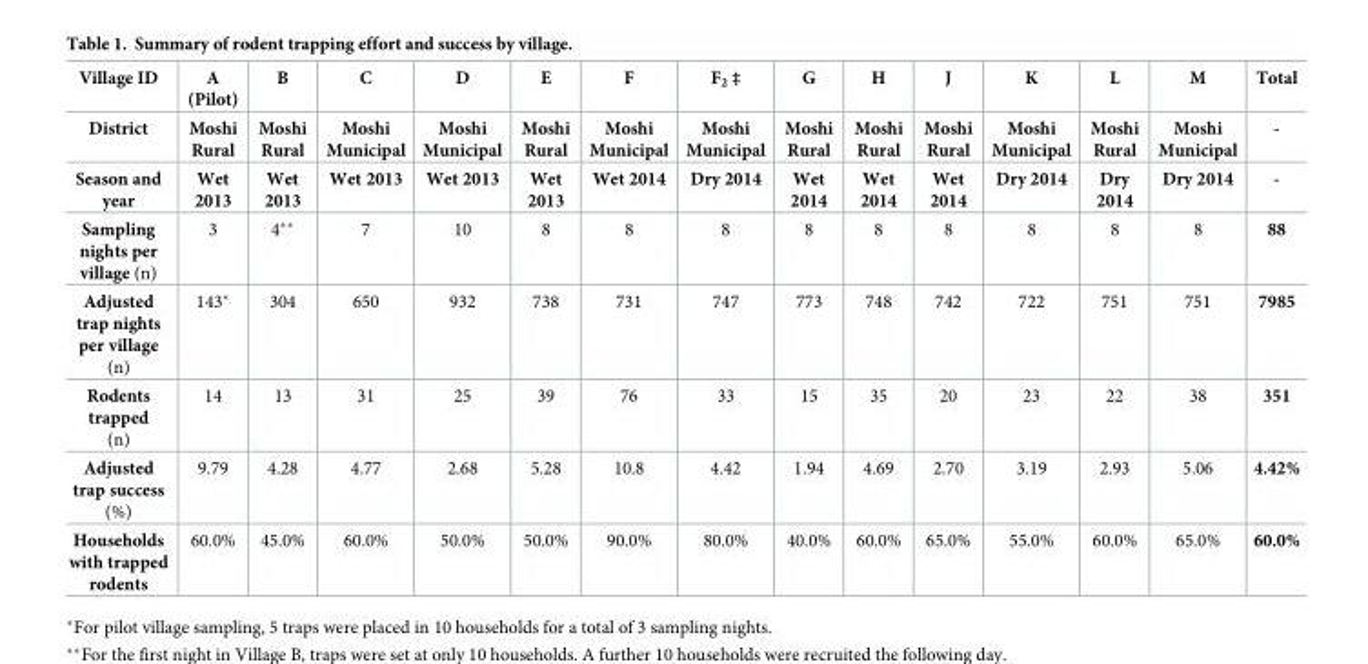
<table><thead><tr><td rowspan="3">Village ID District Season and year</td><td rowspan="3">A (Pilot) Moshi Rural Wet 2013</td><td rowspan="3">B Moshi Rural Wet 2013</td><td rowspan="3">C Moshi Municipal Wet 2013</td><td rowspan="3">D Moshi Municipal Wet 2013</td><td rowspan="3">E Moshi Rural Wet 2013</td><td rowspan="3">F Moshi Municipal Wet 2014</td><td rowspan="3">F<sub>2</sub> ‡ Moshi Municipal Dry 2014</td><td rowspan="3">G Moshi Rural Wet 2014</td><td rowspan="3">H Moshi Rural Wet 2014</td><td rowspan="3">J Moshi Rural Wet 2014</td><td rowspan="3">K Moshi Municipal Dry 2014</td><td rowspan="3">L Moshi Rural Dry 2014</td><td rowspan="3">M Moshi Municipal Dry 2014</td><td rowspan="3">Total - -</td></tr><tr></tr><tr></tr></thead><tbody><tr><td>Sampling nights per village (n)</td><td>3</td><td>4**</td><td>7</td><td>10</td><td>8</td><td>8</td><td>8</td><td>8</td><td>8</td><td>8</td><td>8</td><td>8</td><td>8</td><td>88</td></tr><tr><td>Adjusted trap nights per village (n)</td><td>143*</td><td>304</td><td>650</td><td>932</td><td>738</td><td>731</td><td>747</td><td>773</td><td>748</td><td>742</td><td>722</td><td>751</td><td>751</td><td>7985</td></tr><tr><td>Rodents trapped (n)</td><td>14</td><td>13</td><td>31</td><td>25</td><td>39</td><td>76</td><td>33</td><td>15</td><td>35</td><td>20</td><td>23</td><td>22</td><td>38</td><td>351</td></tr><tr><td>Adjusted trap success (%)</td><td>9.79</td><td>4.28</td><td>4.77</td><td>2.68</td><td>5.28</td><td>10.8</td><td>4.42</td><td>1.94</td><td>4.69</td><td>2.70</td><td>3.19</td><td>2.93</td><td>5.06</td><td>4.42%</td></tr><tr><td>Households with trapped rodents</td><td>60.0%</td><td>45.0%</td><td>60.0%</td><td>50.0%</td><td>50.0%</td><td>90.0%</td><td>80.0%</td><td>40.0%</td><td>60.0%</td><td>65.0%</td><td>55.0%</td><td>60.0%</td><td>65.0%</td><td>60.0%</td></tr></tbody></table>